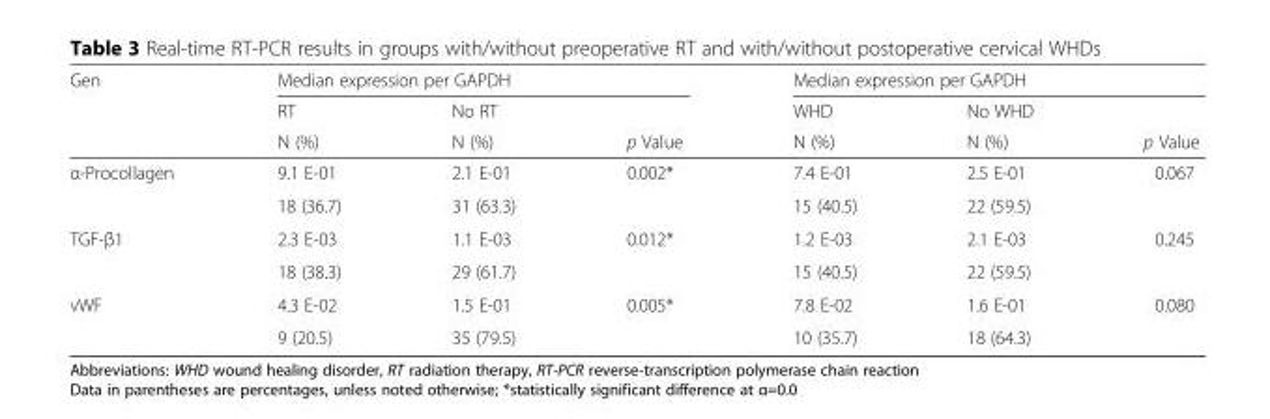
<table><thead><tr><td rowspan="3">Gen</td><td colspan="3">Median expression per GAPDH</td><td colspan="3">Median expression per GAPDH</td></tr><tr><td rowspan="2">RT N (%)</td><td rowspan="2">No RT N (%)</td><td rowspan="2">p Value</td><td rowspan="2">WHD N (%)</td><td rowspan="2">No WHD N (%)</td><td rowspan="2">p Value</td></tr><tr></tr></thead><tbody><tr><td rowspan="2">α-Procollagen</td><td>9.1 E-01</td><td>2.1 E-01</td><td>0.002*</td><td>7.4 E-01</td><td>2.5 E-01</td><td>0.067</td></tr><tr><td>18 (36.7)</td><td>31 (63.3)</td><td></td><td>15 (40.5)</td><td>22 (59.5)</td><td></td></tr><tr><td rowspan="2">TGF-β1</td><td>2.3 E-03</td><td>1.1 E-03</td><td>0.012*</td><td>1.2 E-03</td><td>2.1 E-03</td><td>0.245</td></tr><tr><td>18 (38.3)</td><td>29 (61.7)</td><td></td><td>15 (40.5)</td><td>22 (59.5)</td><td></td></tr><tr><td rowspan="2">vWF</td><td>4.3 E-02</td><td>1.5 E-01</td><td>0.005*</td><td>7.8 E-02</td><td>1.6 E-01</td><td>0.080</td></tr><tr><td>9 (20.5)</td><td>35 (79.5)</td><td></td><td>10 (35.7)</td><td>18 (64.3)</td><td></td></tr></tbody></table>